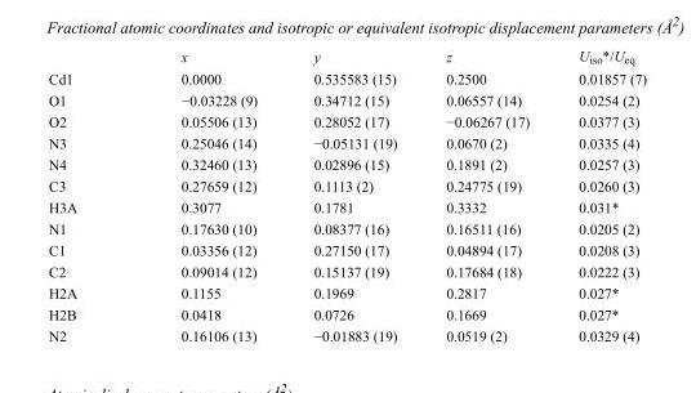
<table><thead><tr><td></td><td>x</td><td>y</td><td>z</td><td>U<sub>iso</sub>*/U<sub>eq</sub></td></tr></thead><tbody><tr><td>Cd1</td><td>0.0000</td><td>0.535583 (15)</td><td>0.2500</td><td>0.01857 (7)</td></tr><tr><td>O1</td><td>−0.03228 (9)</td><td>0.34712 (15)</td><td>0.06557 (14)</td><td>0.0254 (2)</td></tr><tr><td>O2</td><td>0.05506 (13)</td><td>0.28052 (17)</td><td>−0.06267 (17)</td><td>0.0377 (3)</td></tr><tr><td>N3</td><td>0.25046 (14)</td><td>−0.05131 (19)</td><td>0.0670 (2)</td><td>0.0335 (4)</td></tr><tr><td>N4</td><td>0.32460 (13)</td><td>0.02896 (15)</td><td>0.1891 (2)</td><td>0.0257 (3)</td></tr><tr><td>C3</td><td>0.27659 (12)</td><td>0.1113 (2)</td><td>0.24775 (19)</td><td>0.0260 (3)</td></tr><tr><td>H3A</td><td>0.3077</td><td>0.1781</td><td>0.3332</td><td>0.031*</td></tr><tr><td>N1</td><td>0.17630 (10)</td><td>0.08377 (16)</td><td>0.16511 (16)</td><td>0.0205 (2)</td></tr><tr><td>C1</td><td>0.03356 (12)</td><td>0.27150 (17)</td><td>0.04894 (17)</td><td>0.0208 (3)</td></tr><tr><td>C2</td><td>0.09014 (12)</td><td>0.15137 (19)</td><td>0.17684 (18)</td><td>0.0222 (3)</td></tr><tr><td>H2A</td><td>0.1155</td><td>0.1969</td><td>0.2817</td><td>0.027*</td></tr><tr><td>H2B</td><td>0.0418</td><td>0.0726</td><td>0.1669</td><td>0.027*</td></tr><tr><td>N2</td><td>0.16106 (13)</td><td>−0.01883 (19)</td><td>0.0519 (2)</td><td>0.0329 (4)</td></tr></tbody></table>